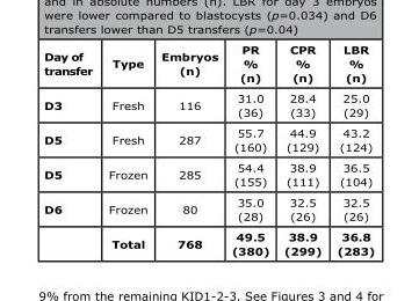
<table><thead><tr><td>Day of transfer</td><td>Type</td><td>Embryos (n)</td><td>PR % (n)</td><td>CPR % (n)</td><td>LBR % (n)</td></tr></thead><tbody><tr><td>D3</td><td>Fresh</td><td>116</td><td>31.0 (36)</td><td>28.4 (33)</td><td>25.0 (29)</td></tr><tr><td>D5</td><td>Fresh</td><td>287</td><td>55.7 (160)</td><td>44.9 (129)</td><td>43.2 (124)</td></tr><tr><td>D5</td><td>Frozen</td><td>285</td><td>54.4 (155)</td><td>38.9 (111)</td><td>36.5 (104)</td></tr><tr><td rowspan="2">D6</td><td>Frozen</td><td>80</td><td>35.0 (28)</td><td>32.5 (26)</td><td>32.5 (26)</td></tr><tr><td>Total</td><td>768</td><td>49.5 (380)</td><td>38.9 (299)</td><td>36.8 (283)</td></tr></tbody></table>